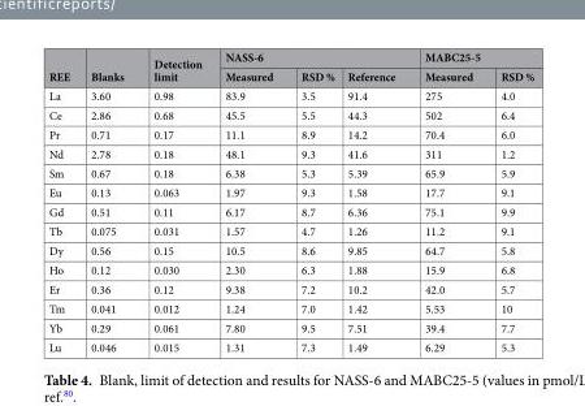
<table><thead><tr><td rowspan="2">REE</td><td rowspan="2">Blanks</td><td rowspan="2">Detection limit</td><td colspan="3">NASS-6</td><td colspan="2">MABC25-5</td></tr><tr><td>Measured</td><td>RSD %</td><td>Reference</td><td>Measured</td><td>RSD %</td></tr></thead><tbody><tr><td>La</td><td>3.60</td><td>0.98</td><td>83.9</td><td>3.5</td><td>91.4</td><td>275</td><td>4.0</td></tr><tr><td>Ce</td><td>2.86</td><td>0.68</td><td>45.5</td><td>5.5</td><td>44.3</td><td>502</td><td>6.4</td></tr><tr><td>Pr</td><td>0.71</td><td>0.17</td><td>11.1</td><td>8.9</td><td>14.2</td><td>70.4</td><td>6.0</td></tr><tr><td>Nd</td><td>2.78</td><td>0.18</td><td>48.1</td><td>9.3</td><td>41.6</td><td>311</td><td>1.2</td></tr><tr><td>Sm</td><td>0.67</td><td>0.18</td><td>6.38</td><td>5.3</td><td>5.39</td><td>65.9</td><td>5.9</td></tr><tr><td>Eu</td><td>0.13</td><td>0.063</td><td>1.97</td><td>9.3</td><td>1.58</td><td>17.7</td><td>9.1</td></tr><tr><td>Gd</td><td>0.51</td><td>0.11</td><td>6.17</td><td>8.7</td><td>6.36</td><td>75.1</td><td>9.9</td></tr><tr><td>Tb</td><td>0.075</td><td>0.031</td><td>1.57</td><td>4.7</td><td>1.26</td><td>11.2</td><td>9.1</td></tr><tr><td>Dy</td><td>0.56</td><td>0.15</td><td>10.5</td><td>8.6</td><td>9.85</td><td>64.7</td><td>5.8</td></tr><tr><td>Ho</td><td>0.12</td><td>0.030</td><td>2.30</td><td>6.3</td><td>1.88</td><td>15.9</td><td>6.8</td></tr><tr><td>Er</td><td>0.36</td><td>0.12</td><td>9.38</td><td>7.2</td><td>10.2</td><td>42.0</td><td>5.7</td></tr><tr><td>Tm</td><td>0.041</td><td>0.012</td><td>1.24</td><td>7.0</td><td>1.42</td><td>5.53</td><td>10</td></tr><tr><td>Yb</td><td>0.29</td><td>0.061</td><td>7.80</td><td>9.5</td><td>7.51</td><td>39.4</td><td>7.7</td></tr><tr><td>Lu</td><td>0.046</td><td>0.015</td><td>1.31</td><td>7.3</td><td>1.49</td><td>6.29</td><td>5.3</td></tr></tbody></table>